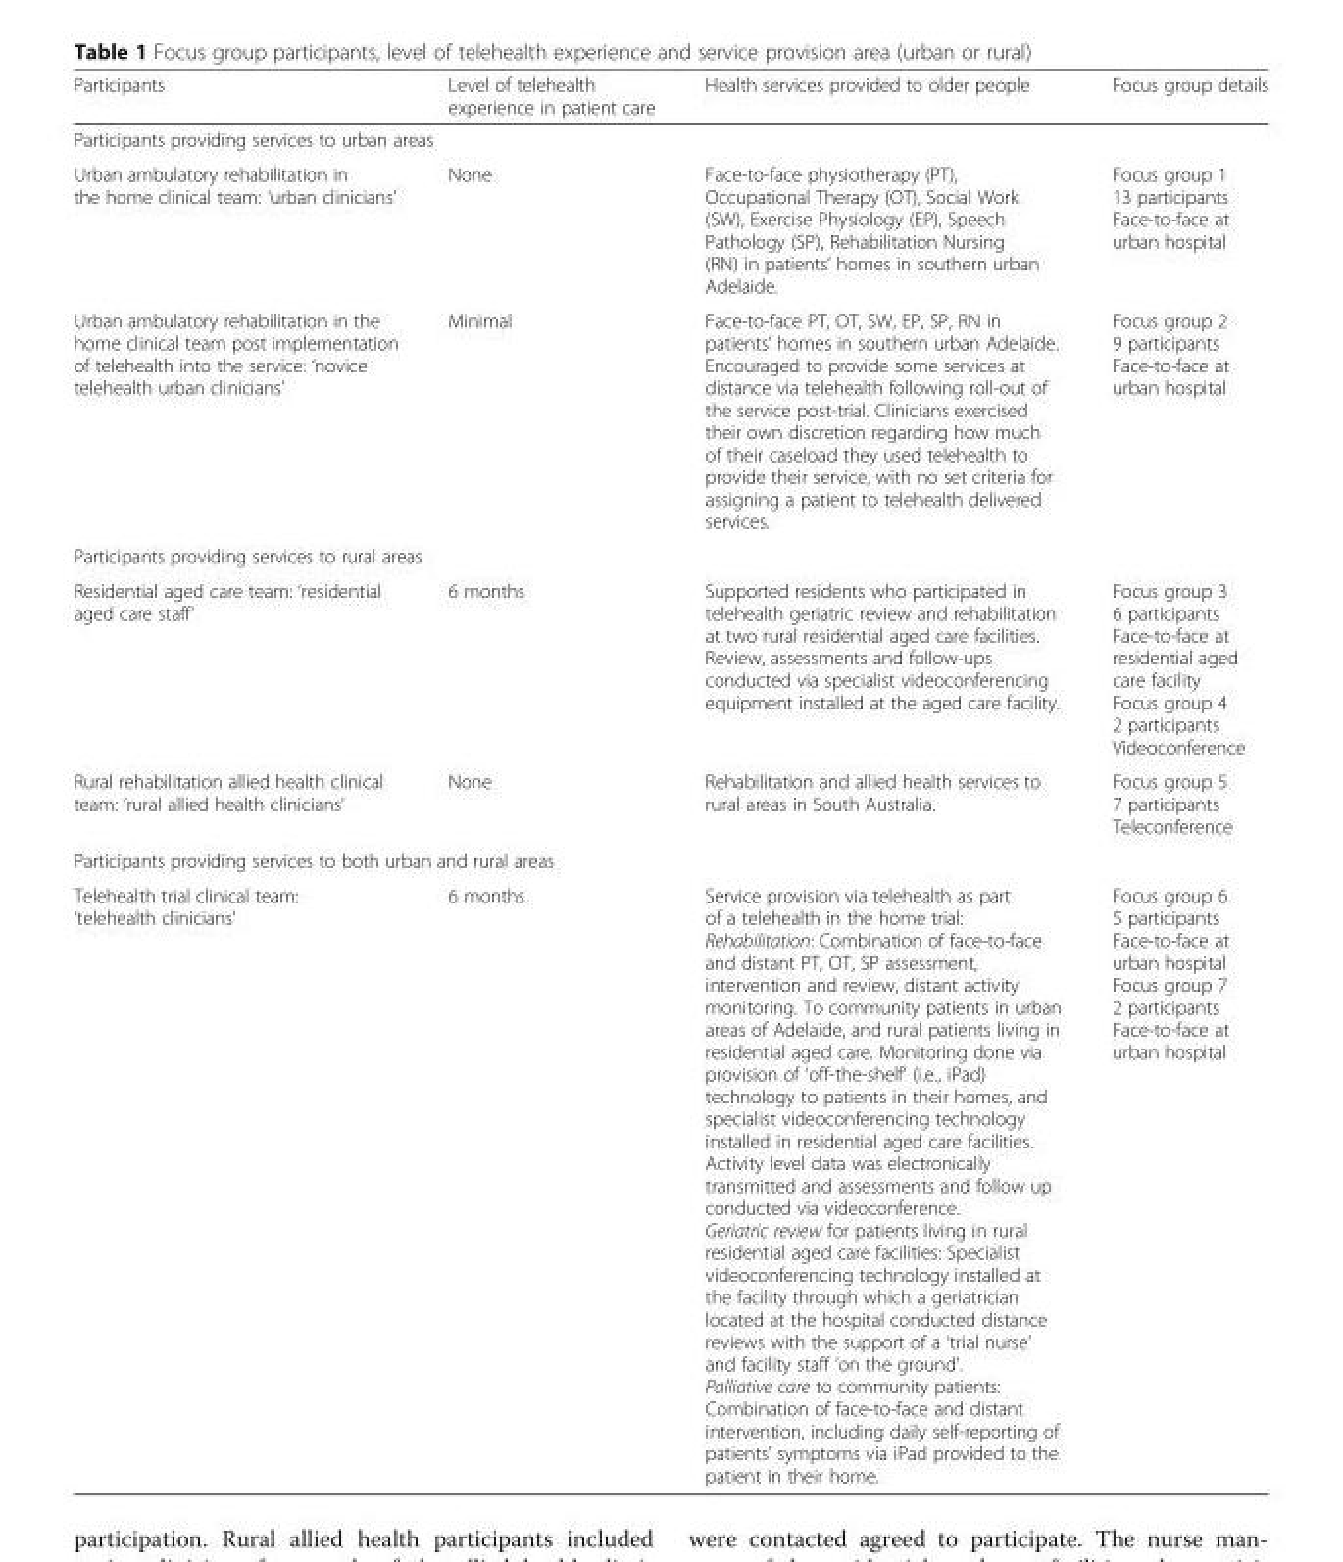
<table><thead><tr><td>Participants</td><td>Level of telehealth experience in patient care</td><td>Health services provided to older people</td><td>Focus group details</td></tr></thead><tbody><tr><td colspan="4">Participants providing services to urban areas</td></tr><tr><td>Urban ambulatory rehabilitation in the home clinical team: ‘urban clinicians’</td><td>None</td><td>Face-to-face physiotherapy (PT), Occupational Therapy (OT), Social Work (SW), Exercise Physiology (EP), Speech Pathology (SP), Rehabilitation Nursing (RN) in patients’ homes in southern urban Adelaide.</td><td>Focus group 1 13 participants Face-to-face at urban hospital</td></tr><tr><td>Urban ambulatory rehabilitation in the home clinical team post implementation of telehealth into the service: ‘novice telehealth urban clinicians’</td><td>Minimal</td><td>Face-to-face PT, OT, SW, EP, SP, RN in patients’ homes in southern urban Adelaide. Encouraged to provide some services at distance via telehealth following roll-out of the service post-trial. Clinicians exercised their own discretion regarding how much of their caseload they used telehealth to provide their service, with no set criteria for assigning a patient to telehealth delivered services.</td><td>Focus group 2 9 participants Face-to-face at urban hospital</td></tr><tr><td colspan="4">Participants providing services to rural areas</td></tr><tr><td>Residential aged care team: ‘residential aged care staff’</td><td>6 months</td><td>Supported residents who participated in telehealth geriatric review and rehabilitation at two rural residential aged care facilities. Review, assessments and follow-ups conducted via specialist videoconferencing equipment installed at the aged care facility.</td><td>Focus group 3 6 participants Face-to-face at residential aged care facility Focus group 4 2 participants Videoconference</td></tr><tr><td>Rural rehabilitation allied health clinical team: ‘rural allied health clinicians’</td><td>None</td><td>Rehabilitation and allied health services to rural areas in South Australia.</td><td>Focus group 5 7 participants Teleconference</td></tr><tr><td colspan="4">Participants providing services to both urban and rural areas</td></tr><tr><td>Telehealth trial clinical team: ‘telehealth clinicians’</td><td>6 months</td><td>Service provision via telehealth as part of a telehealth in the home trial: Rehabilitation: Combination of face-to-face and distant PT, OT, SP assessment, intervention and review, distant activity monitoring. To community patients in urban areas of Adelaide, and rural patients living in residential aged care. Monitoring done via provision of ‘off-the-shelf’ (i.e., iPad) technology to patients in their homes, and specialist videoconferencing technology installed in residential aged care facilities. Activity level data was electronically transmitted and assessments and follow up conducted via videoconference. Geriatric review for patients living in rural residential aged care facilities: Specialist videoconferencing technology installed at the facility through which a geriatrician located at the hospital conducted distance reviews with the support of a ‘trial nurse’ and facility staff ‘on the ground’. Palliative care to community patients: Combination of face-to-face and distant intervention, including daily self-reporting of patients’ symptoms via iPad provided to the patient in their home.</td><td>Focus group 6 5 participants Face-to-face at urban hospital Focus group 7 2 participants Face-to-face at urban hospital</td></tr></tbody></table>